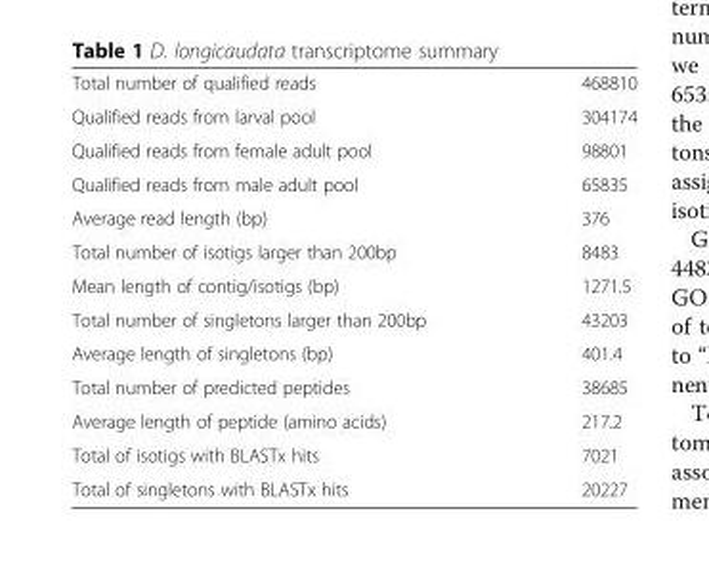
<table><tbody><tr><td>Total number of qualified reads</td><td>468810</td></tr><tr><td>Qualified reads from larval pool</td><td>304174</td></tr><tr><td>Qualified reads from female adult pool</td><td>98801</td></tr><tr><td>Qualified reads from male adult pool</td><td>65835</td></tr><tr><td>Average read length (bp)</td><td>376</td></tr><tr><td>Total number of isotigs larger than 200bp</td><td>8483</td></tr><tr><td>Mean length of contig/isotigs (bp)</td><td>1271.5</td></tr><tr><td>Total number of singletons larger than 200bp</td><td>43203</td></tr><tr><td>Average length of singletons (bp)</td><td>401.4</td></tr><tr><td>Total number of predicted peptides</td><td>38685</td></tr><tr><td>Average length of peptide (amino acids)</td><td>217.2</td></tr><tr><td>Total of isotigs with BLASTx hits</td><td>7021</td></tr><tr><td>Total of singletons with BLASTx hits</td><td>20227</td></tr></tbody></table>